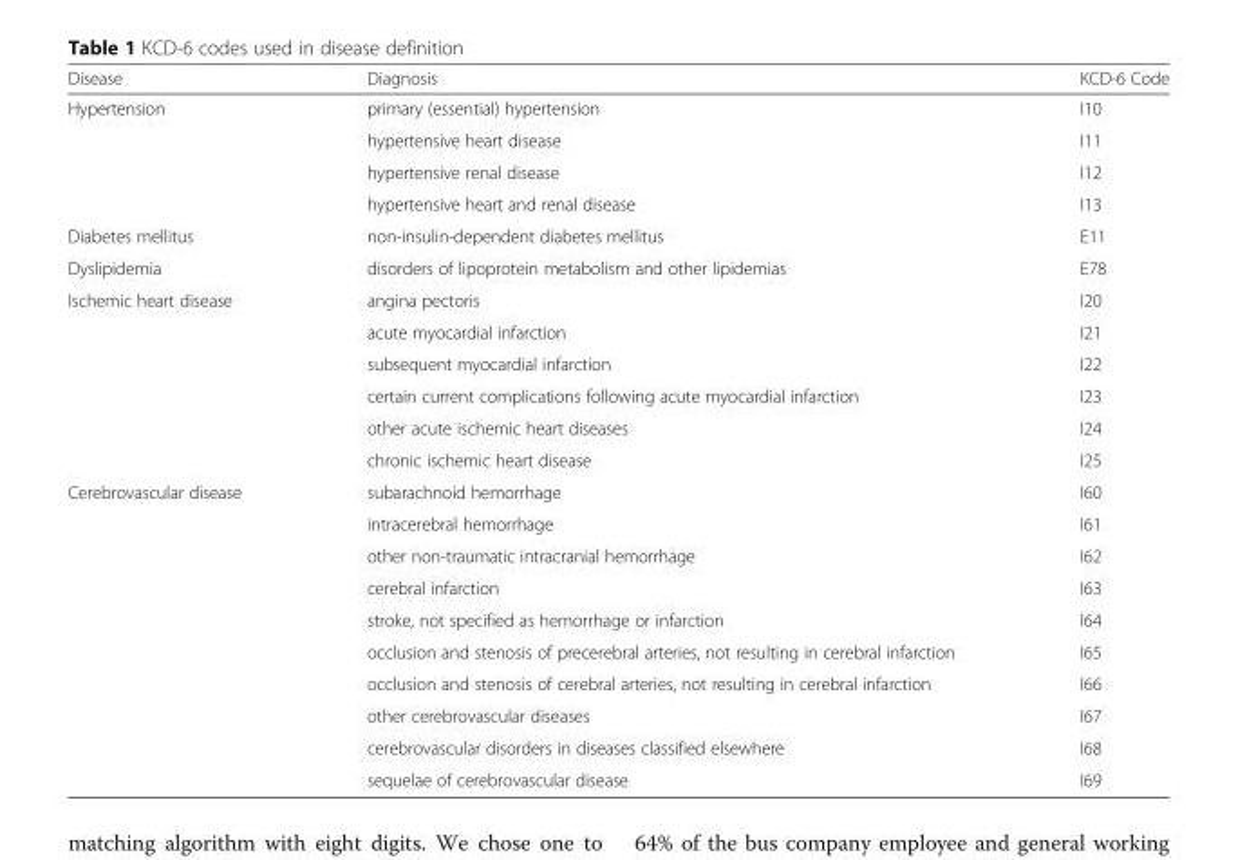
<table><thead><tr><td>Disease</td><td>Diagnosis</td><td>KCD-6 Code</td></tr></thead><tbody><tr><td rowspan="4">Hypertension</td><td>primary (essential) hypertension</td><td>I10</td></tr><tr><td>hypertensive heart disease</td><td>I11</td></tr><tr><td>hypertensive renal disease</td><td>I12</td></tr><tr><td>hypertensive heart and renal disease</td><td>I13</td></tr><tr><td>Diabetes mellitus</td><td>non-insulin-dependent diabetes mellitus</td><td>E11</td></tr><tr><td>Dyslipidemia</td><td>disorders of lipoprotein metabolism and other lipidemias</td><td>E78</td></tr><tr><td rowspan="6">Ischemic heart disease</td><td>angina pectoris</td><td>I20</td></tr><tr><td>acute myocardial infarction</td><td>I21</td></tr><tr><td>subsequent myocardial infarction</td><td>I22</td></tr><tr><td>certain current complications following acute myocardial infarction</td><td>I23</td></tr><tr><td>other acute ischemic heart diseases</td><td>I24</td></tr><tr><td>chronic ischemic heart disease</td><td>I25</td></tr><tr><td rowspan="10">Cerebrovascular disease</td><td>subarachnoid hemorrhage</td><td>I60</td></tr><tr><td>intracerebral hemorrhage</td><td>I61</td></tr><tr><td>other non-traumatic intracranial hemorrhage</td><td>I62</td></tr><tr><td>cerebral infarction</td><td>I63</td></tr><tr><td>stroke, not specified as hemorrhage or infarction</td><td>I64</td></tr><tr><td>occlusion and stenosis of precerebral arteries, not resulting in cerebral infarction</td><td>I65</td></tr><tr><td>occlusion and stenosis of cerebral arteries, not resulting in cerebral infarction</td><td>I66</td></tr><tr><td>other cerebrovascular diseases</td><td>I67</td></tr><tr><td>cerebrovascular disorders in diseases classified elsewhere</td><td>I68</td></tr><tr><td>sequelae of cerebrovascular disease</td><td>I69</td></tr></tbody></table>